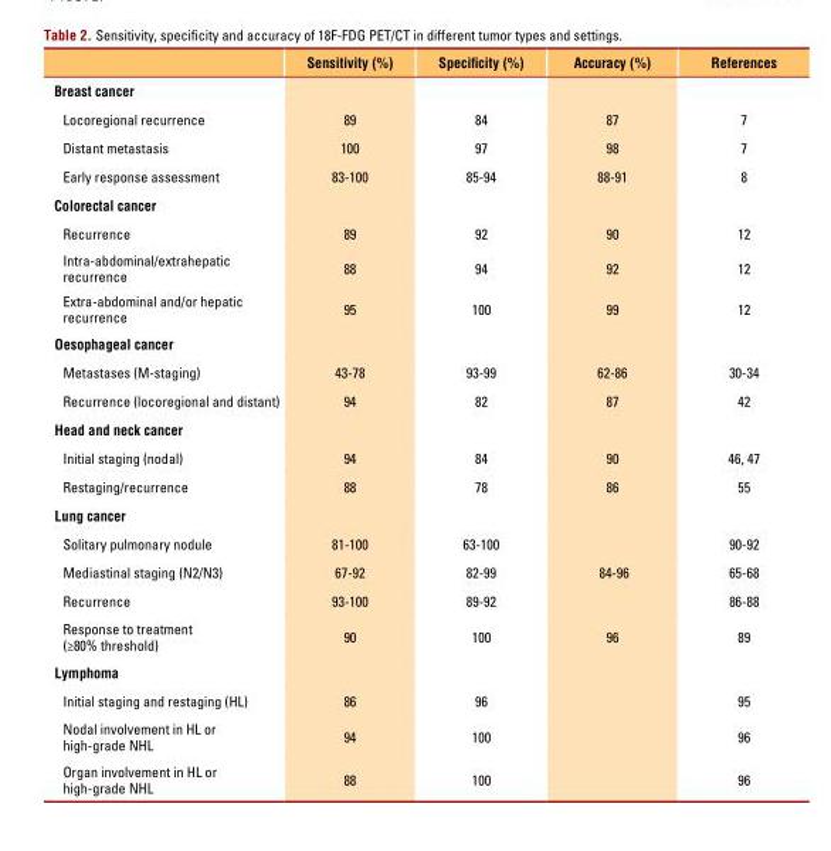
<table><thead><tr><td></td><td>Sensitivity (%)</td><td>Specificity (%)</td><td>Accuracy (%)</td><td>References</td></tr></thead><tbody><tr><td colspan="5">Breast cancer</td></tr><tr><td>Locoregional recurrence</td><td>89</td><td>84</td><td>87</td><td>7</td></tr><tr><td>Distant metastasis</td><td>100</td><td>97</td><td>98</td><td>7</td></tr><tr><td>Early response assessment</td><td>83-100</td><td>85-94</td><td>88-91</td><td>8</td></tr><tr><td colspan="5">Colorectal cancer</td></tr><tr><td>Recurrence</td><td>89</td><td>92</td><td>90</td><td>12</td></tr><tr><td>Intra-abdominal/extrahepatic recurrence</td><td>88</td><td>94</td><td>92</td><td>12</td></tr><tr><td>Extra-abdominal and/or hepatic recurrence</td><td>95</td><td>100</td><td>99</td><td>12</td></tr><tr><td colspan="5">Oesophageal cancer</td></tr><tr><td>Metastases (M-staging)</td><td>43-78</td><td>93-99</td><td>62-86</td><td>30-34</td></tr><tr><td>Recurrence (locoregional and distant)</td><td>94</td><td>82</td><td>87</td><td>42</td></tr><tr><td colspan="5">Head and neck cancer</td></tr><tr><td>Initial staging (nodal)</td><td>94</td><td>84</td><td>90</td><td>46, 47</td></tr><tr><td>Restaging/recurrence</td><td>88</td><td>78</td><td>86</td><td>55</td></tr><tr><td colspan="5">Lung cancer</td></tr><tr><td>Solitary pulmonary nodule</td><td>81-100</td><td>63-100</td><td></td><td>90-92</td></tr><tr><td>Mediastinal staging (N2/N3)</td><td>67-92</td><td>82-99</td><td>84-96</td><td>65-68</td></tr><tr><td>Recurrence</td><td>93-100</td><td>89-92</td><td></td><td>86-88</td></tr><tr><td>Response to treatment (≥80% threshold)</td><td>90</td><td>100</td><td>96</td><td>89</td></tr><tr><td colspan="5">Lymphoma</td></tr><tr><td>Initial staging and restaging (HL)</td><td>86</td><td>96</td><td></td><td>95</td></tr><tr><td>Nodal involvement in HL or high-grade NHL</td><td>94</td><td>100</td><td></td><td>96</td></tr><tr><td>Organ involvement in HL or high-grade NHL</td><td>88</td><td>100</td><td></td><td>96</td></tr></tbody></table>